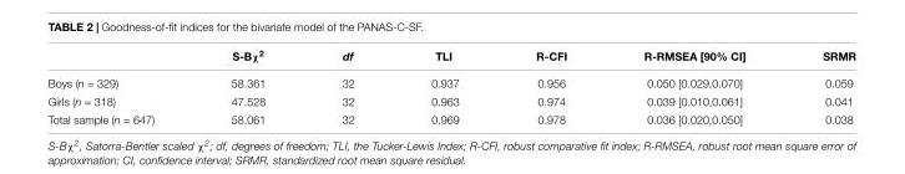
<table><thead><tr><td></td><td>S-Bχ<sup>2</sup></td><td>df</td><td>TLI</td><td>R-CFI</td><td>R-RMSEA [90% CI]</td><td>SRMR</td></tr></thead><tbody><tr><td>Boys (n = 329)</td><td>58.361</td><td>32</td><td>0.937</td><td>0.956</td><td>0.050 [0.029,0.070]</td><td>0.059</td></tr><tr><td>Girls (n = 318)</td><td>47.528</td><td>32</td><td>0.963</td><td>0.974</td><td>0.039 [0.010,0.061]</td><td>0.041</td></tr><tr><td>Total sample (n = 647)</td><td>58.061</td><td>32</td><td>0.969</td><td>0.978</td><td>0.036 [0.020,0.050]</td><td>0.038</td></tr></tbody></table>